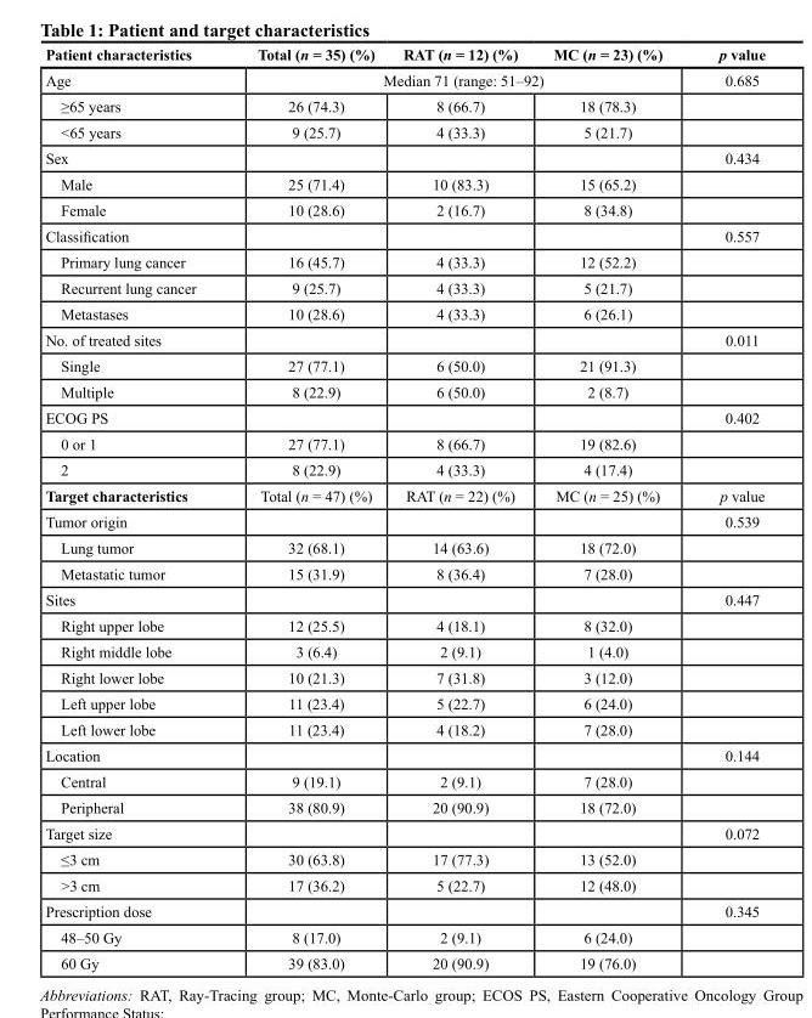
<table><thead><tr><td>Patient characteristics</td><td>Total (n = 35) (%)</td><td>RAT (n = 12) (%)</td><td>MC (n = 23) (%)</td><td>p value</td></tr></thead><tbody><tr><td>Age</td><td colspan="3">Median 71 (range: 51–92)</td><td>0.685</td></tr><tr><td>≥65 years</td><td>26 (74.3)</td><td>8 (66.7)</td><td>18 (78.3)</td><td></td></tr><tr><td>&lt;65 years</td><td>9 (25.7)</td><td>4 (33.3)</td><td>5 (21.7)</td><td></td></tr><tr><td>Sex</td><td></td><td></td><td></td><td>0.434</td></tr><tr><td>Male</td><td>25 (71.4)</td><td>10 (83.3)</td><td>15 (65.2)</td><td></td></tr><tr><td>Female</td><td>10 (28.6)</td><td>2 (16.7)</td><td>8 (34.8)</td><td></td></tr><tr><td>Classification</td><td></td><td></td><td></td><td>0.557</td></tr><tr><td>Primary lung cancer</td><td>16 (45.7)</td><td>4 (33.3)</td><td>12 (52.2)</td><td></td></tr><tr><td>Recurrent lung cancer</td><td>9 (25.7)</td><td>4 (33.3)</td><td>5 (21.7)</td><td></td></tr><tr><td>Metastases</td><td>10 (28.6)</td><td>4 (33.3)</td><td>6 (26.1)</td><td></td></tr><tr><td>No. of treated sites</td><td></td><td></td><td></td><td>0.011</td></tr><tr><td>Single</td><td>27 (77.1)</td><td>6 (50.0)</td><td>21 (91.3)</td><td></td></tr><tr><td>Multiple</td><td>8 (22.9)</td><td>6 (50.0)</td><td>2 (8.7)</td><td></td></tr><tr><td>ECOG PS</td><td></td><td></td><td></td><td>0.402</td></tr><tr><td>0 or 1</td><td>27 (77.1)</td><td>8 (66.7)</td><td>19 (82.6)</td><td></td></tr><tr><td>2</td><td>8 (22.9)</td><td>4 (33.3)</td><td>4 (17.4)</td><td></td></tr><tr><td>Target characteristics</td><td>Total (n = 47) (%)</td><td>RAT (n = 22) (%)</td><td>MC (n = 25) (%)</td><td>p value</td></tr><tr><td>Tumor origin</td><td></td><td></td><td></td><td>0.539</td></tr><tr><td>Lung tumor</td><td>32 (68.1)</td><td>14 (63.6)</td><td>18 (72.0)</td><td></td></tr><tr><td>Metastatic tumor</td><td>15 (31.9)</td><td>8 (36.4)</td><td>7 (28.0)</td><td></td></tr><tr><td>Sites</td><td></td><td></td><td></td><td>0.447</td></tr><tr><td>Right upper lobe</td><td>12 (25.5)</td><td>4 (18.1)</td><td>8 (32.0)</td><td></td></tr><tr><td>Right middle lobe</td><td>3 (6.4)</td><td>2 (9.1)</td><td>1 (4.0)</td><td></td></tr><tr><td>Right lower lobe</td><td>10 (21.3)</td><td>7 (31.8)</td><td>3 (12.0)</td><td></td></tr><tr><td>Left upper lobe</td><td>11 (23.4)</td><td>5 (22.7)</td><td>6 (24.0)</td><td></td></tr><tr><td>Left lower lobe</td><td>11 (23.4)</td><td>4 (18.2)</td><td>7 (28.0)</td><td></td></tr><tr><td>Location</td><td></td><td></td><td></td><td>0.144</td></tr><tr><td>Central</td><td>9 (19.1)</td><td>2 (9.1)</td><td>7 (28.0)</td><td></td></tr><tr><td>Peripheral</td><td>38 (80.9)</td><td>20 (90.9)</td><td>18 (72.0)</td><td></td></tr><tr><td>Target size</td><td></td><td></td><td></td><td>0.072</td></tr><tr><td>≤3 cm</td><td>30 (63.8)</td><td>17 (77.3)</td><td>13 (52.0)</td><td></td></tr><tr><td>&gt;3 cm</td><td>17 (36.2)</td><td>5 (22.7)</td><td>12 (48.0)</td><td></td></tr><tr><td>Prescription dose</td><td></td><td></td><td></td><td>0.345</td></tr><tr><td>48–50 Gy</td><td>8 (17.0)</td><td>2 (9.1)</td><td>6 (24.0)</td><td></td></tr><tr><td>60 Gy</td><td>39 (83.0)</td><td>20 (90.9)</td><td>19 (76.0)</td><td></td></tr></tbody></table>